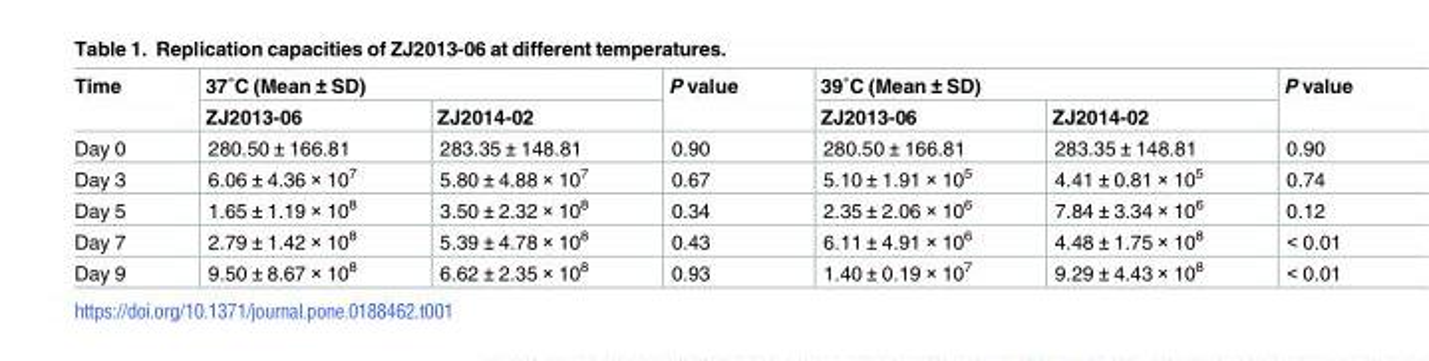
<table><thead><tr><td rowspan="2">Time</td><td colspan="2">37˚C (Mean ± SD)</td><td rowspan="2">P value</td><td colspan="2">39˚C (Mean ± SD)</td><td rowspan="2">P value</td></tr><tr><td>ZJ2013-06</td><td>ZJ2014-02</td><td>ZJ2013-06</td><td>ZJ2014-02</td></tr></thead><tbody><tr><td>Day 0</td><td>280.50 ± 166.81</td><td>283.35 ± 148.81</td><td>0.90</td><td>280.50 ± 166.81</td><td>283.35 ± 148.81</td><td>0.90</td></tr><tr><td>Day 3</td><td>6.06 ± 4.36 × 10<sup>7</sup></td><td>5.80 ± 4.88 × 10<sup>7</sup></td><td>0.67</td><td>5.10 ± 1.91 × 10<sup>5</sup></td><td>4.41 ± 0.81 × 10<sup>5</sup></td><td>0.74</td></tr><tr><td>Day 5</td><td>1.65 ± 1.19 × 10<sup>8</sup></td><td>3.50 ± 2.32 × 10<sup>8</sup></td><td>0.34</td><td>2.35 ± 2.06 × 10<sup>6</sup></td><td>7.84 ± 3.34 × 10<sup>6</sup></td><td>0.12</td></tr><tr><td>Day 7</td><td>2.79 ± 1.42 × 10<sup>8</sup></td><td>5.39 ± 4.78 × 10<sup>8</sup></td><td>0.43</td><td>6.11 ± 4.91 × 10<sup>6</sup></td><td>4.48 ± 1.75 × 10<sup>8</sup></td><td>&lt; 0.01</td></tr><tr><td>Day 9</td><td>9.50 ± 8.67 × 10<sup>8</sup></td><td>6.62 ± 2.35 × 10<sup>8</sup></td><td>0.93</td><td>1.40 ± 0.19 × 10<sup>7</sup></td><td>9.29 ± 4.43 × 10<sup>8</sup></td><td>&lt; 0.01</td></tr></tbody></table>